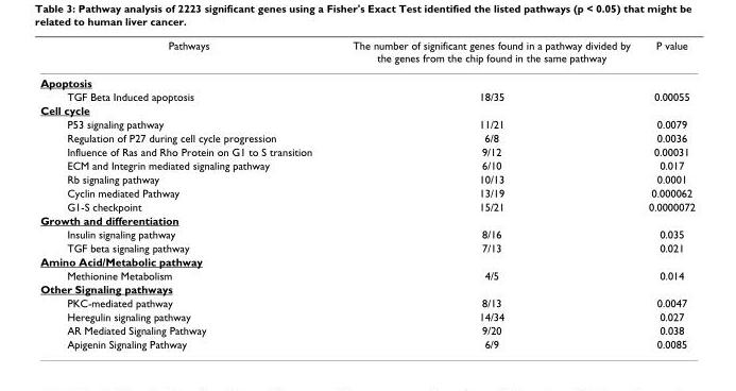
<table><thead><tr><td>Pathways</td><td>The number of significant genes found in a pathway divided by the genes from the chip found in the same pathway</td><td>P value</td></tr></thead><tbody><tr><td colspan="3">Apoptosis</td></tr><tr><td>TGF Beta Induced apoptosis</td><td>18/35</td><td>0.00055</td></tr><tr><td colspan="3">Cell cycle</td></tr><tr><td>P53 signaling pathway</td><td>11/21</td><td>0.0079</td></tr><tr><td>Regulation of P27 during cell cycle progression</td><td>6/8</td><td>0.0036</td></tr><tr><td>Influence of Ras and Rho Protein on G1 to S transition</td><td>9/12</td><td>0.00031</td></tr><tr><td>ECM and Integrin mediated signaling pathway</td><td>6/10</td><td>0.017</td></tr><tr><td>Rb signaling pathway</td><td>10/13</td><td>0.0001</td></tr><tr><td>Cyclin mediated Pathway</td><td>13/19</td><td>0.000062</td></tr><tr><td>G1-S checkpoint</td><td>15/21</td><td>0.0000072</td></tr><tr><td colspan="3">Growth and differentiation</td></tr><tr><td>Insulin signaling pathway</td><td>8/16</td><td>0.035</td></tr><tr><td>TGF beta signaling pathway</td><td>7/13</td><td>0.021</td></tr><tr><td colspan="3">Amino Acid/Metabolic pathway</td></tr><tr><td>Methionine Metabolism</td><td>4/5</td><td>0.014</td></tr><tr><td colspan="3">Other Signaling pathways</td></tr><tr><td>PKC-mediated pathway</td><td>8/13</td><td>0.0047</td></tr><tr><td>Heregulin signaling pathway</td><td>14/34</td><td>0.027</td></tr><tr><td>AR Mediated Signaling Pathway</td><td>9/20</td><td>0.038</td></tr><tr><td>Apigenin Signaling Pathway</td><td>6/9</td><td>0.0085</td></tr></tbody></table>